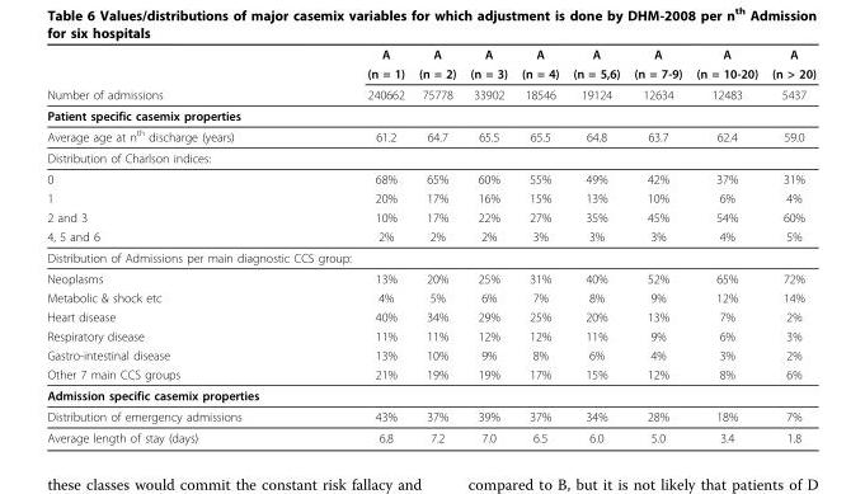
<table><thead><tr><td rowspan="3">Number of admissions</td><td rowspan="3">A (n = 1) 240662</td><td rowspan="3">A (n = 2) 75778</td><td rowspan="3">A (n = 3) 33902</td><td rowspan="3">A (n = 4) 18546</td><td rowspan="3">A (n = 5,6) 19124</td><td rowspan="3">A (n = 7-9) 12634</td><td rowspan="3">A (n = 10-20) 12483</td><td rowspan="3">A (n &gt; 20) 5437</td></tr><tr></tr><tr></tr></thead><tbody><tr><td colspan="9">Patient specific casemix properties</td></tr><tr><td>Average age at n<sup>th</sup> discharge (years)</td><td>61.2</td><td>64.7</td><td>65.5</td><td>65.5</td><td>64.8</td><td>63.7</td><td>62.4</td><td>59.0</td></tr><tr><td colspan="9">Distribution of Charlson indices:</td></tr><tr><td>0</td><td>68%</td><td>65%</td><td>60%</td><td>55%</td><td>49%</td><td>42%</td><td>37%</td><td>31%</td></tr><tr><td>1</td><td>20%</td><td>17%</td><td>16%</td><td>15%</td><td>13%</td><td>10%</td><td>6%</td><td>4%</td></tr><tr><td>2 and 3</td><td>10%</td><td>17%</td><td>22%</td><td>27%</td><td>35%</td><td>45%</td><td>54%</td><td>60%</td></tr><tr><td>4, 5 and 6</td><td>2%</td><td>2%</td><td>2%</td><td>3%</td><td>3%</td><td>3%</td><td>4%</td><td>5%</td></tr><tr><td colspan="9">Distribution of Admissions per main diagnostic CCS group:</td></tr><tr><td>Neoplasms</td><td>13%</td><td>20%</td><td>25%</td><td>31%</td><td>40%</td><td>52%</td><td>65%</td><td>72%</td></tr><tr><td>Metabolic &amp; shock etc</td><td>4%</td><td>5%</td><td>6%</td><td>7%</td><td>8%</td><td>9%</td><td>12%</td><td>14%</td></tr><tr><td>Heart disease</td><td>40%</td><td>34%</td><td>29%</td><td>25%</td><td>20%</td><td>13%</td><td>7%</td><td>2%</td></tr><tr><td>Respiratory disease</td><td>11%</td><td>11%</td><td>12%</td><td>12%</td><td>11%</td><td>9%</td><td>6%</td><td>3%</td></tr><tr><td>Gastro-intestinal disease</td><td>13%</td><td>10%</td><td>9%</td><td>8%</td><td>6%</td><td>4%</td><td>3%</td><td>2%</td></tr><tr><td>Other 7 main CCS groups</td><td>21%</td><td>19%</td><td>19%</td><td>17%</td><td>15%</td><td>12%</td><td>8%</td><td>6%</td></tr><tr><td colspan="9">Admission specific casemix properties</td></tr><tr><td>Distribution of emergency admissions</td><td>43%</td><td>37%</td><td>39%</td><td>37%</td><td>34%</td><td>28%</td><td>18%</td><td>7%</td></tr><tr><td>Average length of stay (days)</td><td>6.8</td><td>7.2</td><td>7.0</td><td>6.5</td><td>6.0</td><td>5.0</td><td>3.4</td><td>1.8</td></tr></tbody></table>